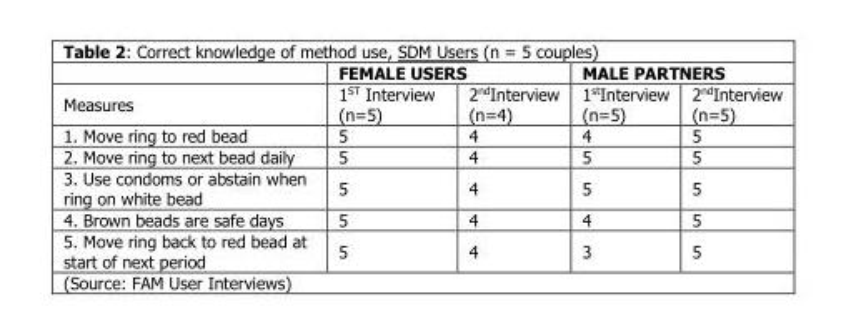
<table><thead><tr><td rowspan="2">Measures</td><td colspan="2">FEMALE USERS</td><td colspan="2">MALE PARTNERS</td></tr><tr><td>1ST Interview (n=5)</td><td>2<sup>nd</sup>Interview (n=4)</td><td>1<sup>st</sup>Interview (n=5)</td><td>2<sup>nd</sup>Interview (n=5)</td></tr></thead><tbody><tr><td>1. Move ring to red bead</td><td>5</td><td>4</td><td>4</td><td>5</td></tr><tr><td>2. Move ring to next bead daily</td><td>5</td><td>4</td><td>5</td><td>5</td></tr><tr><td>3. Use condoms or abstain when ring on white bead</td><td>5</td><td>4</td><td>5</td><td>5</td></tr><tr><td>4. Brown beads are safe days</td><td>5</td><td>4</td><td>4</td><td>5</td></tr><tr><td>5. Move ring back to red bead at start of next period</td><td>5</td><td>4</td><td>3</td><td>5</td></tr></tbody></table>